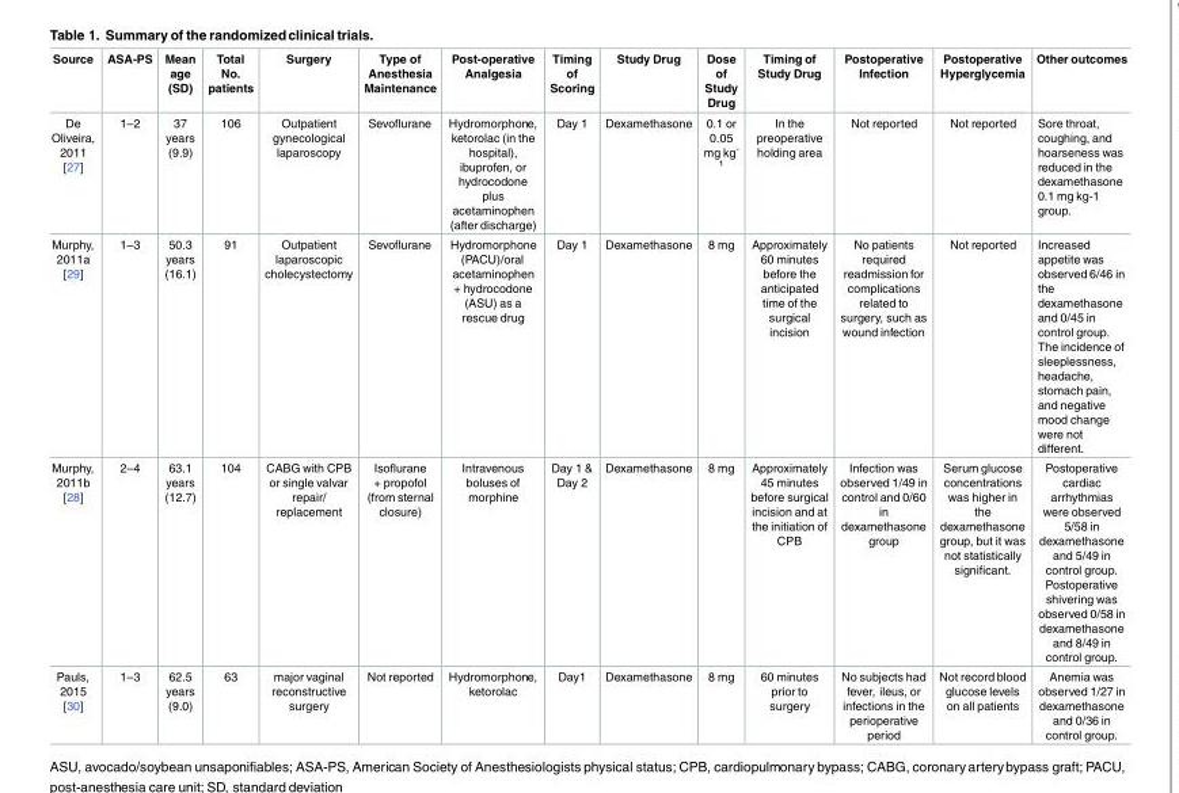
<table><thead><tr><td>Source</td><td>ASA-PS</td><td>Mean age (SD)</td><td>Total No. patients</td><td>Surgery</td><td>Type of Anesthesia Maintenance</td><td>Post-operative Analgesia</td><td>Timing of Scoring</td><td>Study Drug</td><td>Dose of Study Drug</td><td>Timing of Study Drug</td><td>Postoperative Infection</td><td>Postoperative Hyperglycemia</td><td>Other outcomes</td></tr></thead><tbody><tr><td>De Oliveira, 2011 [27]</td><td>1–2</td><td>37 years (9.9)</td><td>106</td><td>Outpatient gynecological laparoscopy</td><td>Sevoflurane</td><td>Hydromorphone, ketorolac (in the hospital), ibuprofen, or hydrocodone plus acetaminophen (after discharge)</td><td>Day 1</td><td>Dexamethasone</td><td>0.1 or 0.05 mg kg<sup>- 1</sup></td><td>In the preoperative holding area</td><td>Not reported</td><td>Not reported</td><td>Sore throat, coughing, and hoarseness was reduced in the dexamethasone 0.1 mg kg-1 group.</td></tr><tr><td>Murphy, 2011a [29]</td><td>1–3</td><td>50.3 years (16.1)</td><td>91</td><td>Outpatient laparoscopic cholecystectomy</td><td>Sevoflurane</td><td>Hydromorphone (PACU)/oral acetaminophen + hydrocodone (ASU) as a rescue drug</td><td>Day 1</td><td>Dexamethasone</td><td>8 mg</td><td>Approximately 60 minutes before the anticipated time of the surgical incision</td><td>No patients required readmission for complications related to surgery, such as wound infection</td><td>Not reported</td><td>Increased appetite was observed 6/46 in the dexamethasone and 0/45 in control group. The incidence of sleeplessness, headache, stomach pain, and negative mood change were not different.</td></tr><tr><td>Murphy, 2011b [28]</td><td>2–4</td><td>63.1 years (12.7)</td><td>104</td><td>CABG with CPB or single valvar repair/ replacement</td><td>Isoflurane + propofol (from sternal closure)</td><td>Intravenous boluses of morphine</td><td>Day 1 &amp; Day 2</td><td>Dexamethasone</td><td>8 mg</td><td>Approximately 45 minutes before surgical incision and at the initiation of CPB</td><td>Infection was observed 1/49 in control and 0/60 in dexamethasone group</td><td>Serum glucose concentrations was higher in the dexamethasone group, but it was not statistically significant.</td><td>Postoperative cardiac arrhythmias were observed 5/58 in dexamethasone and 5/49 in control group. Postoperative shivering was observed 0/58 in dexamethasone and 8/49 in control group.</td></tr><tr><td>Pauls, 2015 [30]</td><td>1–3</td><td>62.5 years (9.0)</td><td>63</td><td>major vaginal reconstructive surgery</td><td>Not reported</td><td>Hydromorphone, ketorolac</td><td>Day1</td><td>Dexamethasone</td><td>8 mg</td><td>60 minutes prior to surgery</td><td>No subjects had fever, ileus, or infections in the perioperative period</td><td>Not record blood glucose levels on all patients</td><td>Anemia was observed 1/27 in dexamethasone and 0/36 in control group.</td></tr></tbody></table>